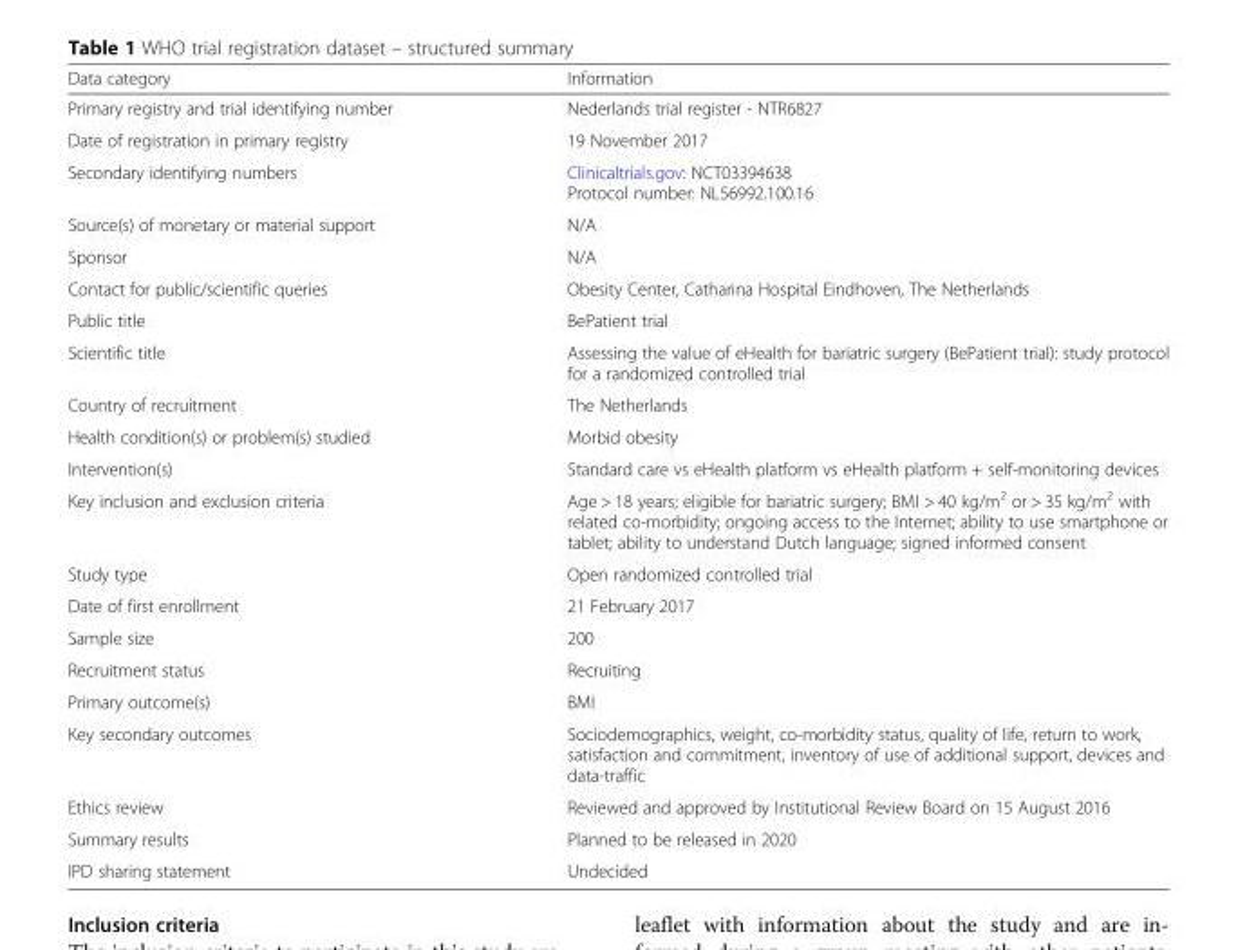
<table><thead><tr><td>Data category</td><td>Information</td></tr></thead><tbody><tr><td>Primary registry and trial identifying number</td><td>Nederlands trial register - NTR6827</td></tr><tr><td>Date of registration in primary registry</td><td>19 November 2017</td></tr><tr><td>Secondary identifying numbers</td><td>Clinicaltrials.gov: NCT03394638 Protocol number: NL56992.100.16</td></tr><tr><td>Source(s) of monetary or material support</td><td>N/A</td></tr><tr><td>Sponsor</td><td>N/A</td></tr><tr><td>Contact for public/scientific queries</td><td>Obesity Center, Catharina Hospital Eindhoven, The Netherlands</td></tr><tr><td>Public title</td><td>BePatient trial</td></tr><tr><td>Scientific title</td><td>Assessing the value of eHealth for bariatric surgery (BePatient trial): study protocol for a randomized controlled trial</td></tr><tr><td>Country of recruitment</td><td>The Netherlands</td></tr><tr><td>Health condition(s) or problem(s) studied</td><td>Morbid obesity</td></tr><tr><td>Intervention(s)</td><td>Standard care vs eHealth platform vs eHealth platform + self-monitoring devices</td></tr><tr><td>Key inclusion and exclusion criteria</td><td>Age &gt; 18 years; eligible for bariatric surgery; BMI &gt; 40 kg/m<sup>2</sup> or &gt; 35 kg/m<sup>2</sup> with related co-morbidity; ongoing access to the Internet; ability to use smartphone or tablet; ability to understand Dutch language; signed informed consent</td></tr><tr><td>Study type</td><td>Open randomized controlled trial</td></tr><tr><td>Date of first enrollment</td><td>21 February 2017</td></tr><tr><td>Sample size</td><td>200</td></tr><tr><td>Recruitment status</td><td>Recruiting</td></tr><tr><td>Primary outcome(s)</td><td>BMI</td></tr><tr><td>Key secondary outcomes</td><td>Sociodemographics, weight, co-morbidity status, quality of life, return to work, satisfaction and commitment, inventory of use of additional support, devices and data-traffic</td></tr><tr><td>Ethics review</td><td>Reviewed and approved by Institutional Review Board on 15 August 2016</td></tr><tr><td>Summary results</td><td>Planned to be released in 2020</td></tr><tr><td>IPD sharing statement</td><td>Undecided</td></tr></tbody></table>